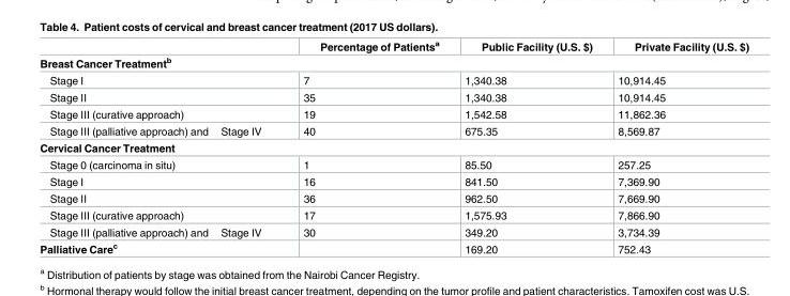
<table><thead><tr><td></td><td>Percentage of Patients<sup>a</sup></td><td>Public Facility (U.S. $)</td><td>Private Facility (U.S. $)</td></tr></thead><tbody><tr><td colspan="4">Breast Cancer Treatment<sup>b</sup></td></tr><tr><td>Stage I</td><td>7</td><td>1,340.38</td><td>10,914.45</td></tr><tr><td>Stage II</td><td>35</td><td>1,340.38</td><td>10,914.45</td></tr><tr><td>Stage III (curative approach)</td><td>19</td><td>1,542.58</td><td>11,862.36</td></tr><tr><td>Stage III (palliative approach) and Stage IV</td><td>40</td><td>675.35</td><td>8,569.87</td></tr><tr><td colspan="4">Cervical Cancer Treatment</td></tr><tr><td>Stage 0 (carcinoma in situ)</td><td>1</td><td>85.50</td><td>257.25</td></tr><tr><td>Stage I</td><td>16</td><td>841.50</td><td>7,369.90</td></tr><tr><td>Stage II</td><td>36</td><td>962.50</td><td>7,669.90</td></tr><tr><td>Stage III (curative approach)</td><td>17</td><td>1,575.93</td><td>7,866.90</td></tr><tr><td>Stage III (palliative approach) and Stage IV</td><td>30</td><td>349.20</td><td>3,734.39</td></tr><tr><td>Palliative Care<sup>c</sup></td><td></td><td>169.20</td><td>752.43</td></tr></tbody></table>